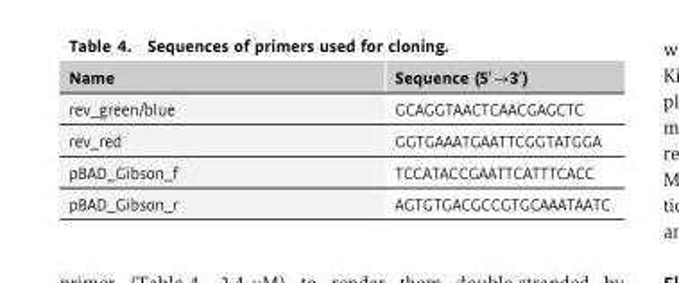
<table><thead><tr><td>Name</td><td>Sequence (5′→3′)</td></tr></thead><tbody><tr><td>rev_green/blue</td><td>GCAGGTAACTCAACGAGCTC</td></tr><tr><td>rev_red</td><td>GGTGAAATGAATTCGGTATGGA</td></tr><tr><td>pBAD_Gibson_f</td><td>TCCATACCGAATTCATTTCACC</td></tr><tr><td>pBAD_Gibson_r</td><td>AGTGTGACGCCGTGCAAATAATC</td></tr></tbody></table>